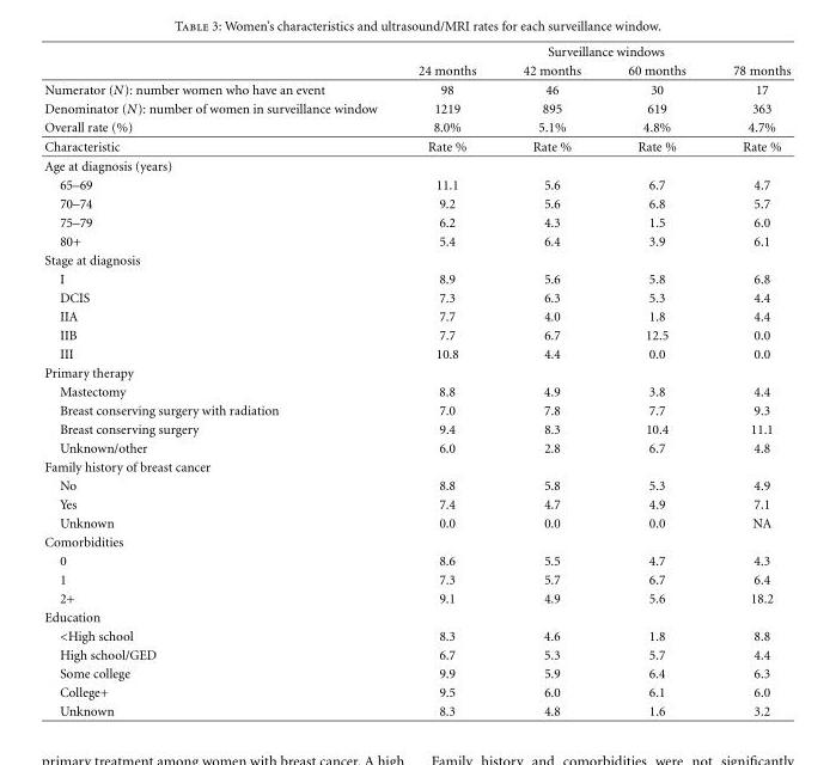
<table><thead><tr><td rowspan="2"></td><td colspan="4">Surveillance windows</td></tr><tr><td>24 months</td><td>42 months</td><td>60 months</td><td>78 months</td></tr></thead><tbody><tr><td>Numerator (N): number women who have an event</td><td>98</td><td>46</td><td>30</td><td>17</td></tr><tr><td>Denominator (N): number of women in surveillance window</td><td>1219</td><td>895</td><td>619</td><td>363</td></tr><tr><td>Overall rate (%)</td><td>8.0%</td><td>5.1%</td><td>4.8%</td><td>4.7%</td></tr><tr><td>Characteristic</td><td>Rate %</td><td>Rate %</td><td>Rate %</td><td>Rate %</td></tr><tr><td colspan="5">Age at diagnosis (years)</td></tr><tr><td>65–69</td><td>11.1</td><td>5.6</td><td>6.7</td><td>4.7</td></tr><tr><td>70–74</td><td>9.2</td><td>5.6</td><td>6.8</td><td>5.7</td></tr><tr><td>75–79</td><td>6.2</td><td>4.3</td><td>1.5</td><td>6.0</td></tr><tr><td>80+</td><td>5.4</td><td>6.4</td><td>3.9</td><td>6.1</td></tr><tr><td colspan="5">Stage at diagnosis</td></tr><tr><td>I</td><td>8.9</td><td>5.6</td><td>5.8</td><td>6.8</td></tr><tr><td>DCIS</td><td>7.3</td><td>6.3</td><td>5.3</td><td>4.4</td></tr><tr><td>IIA</td><td>7.7</td><td>4.0</td><td>1.8</td><td>4.4</td></tr><tr><td>IIB</td><td>7.7</td><td>6.7</td><td>12.5</td><td>0.0</td></tr><tr><td>III</td><td>10.8</td><td>4.4</td><td>0.0</td><td>0.0</td></tr><tr><td colspan="5">Primary therapy</td></tr><tr><td>Mastectomy</td><td>8.8</td><td>4.9</td><td>3.8</td><td>4.4</td></tr><tr><td>Breast conserving surgery with radiation</td><td>7.0</td><td>7.8</td><td>7.7</td><td>9.3</td></tr><tr><td>Breast conserving surgery</td><td>9.4</td><td>8.3</td><td>10.4</td><td>11.1</td></tr><tr><td>Unknown/other</td><td>6.0</td><td>2.8</td><td>6.7</td><td>4.8</td></tr><tr><td colspan="5">Family history of breast cancer</td></tr><tr><td>No</td><td>8.8</td><td>5.8</td><td>5.3</td><td>4.9</td></tr><tr><td>Yes</td><td>7.4</td><td>4.7</td><td>4.9</td><td>7.1</td></tr><tr><td>Unknown</td><td>0.0</td><td>0.0</td><td>0.0</td><td>NA</td></tr><tr><td colspan="5">Comorbidities</td></tr><tr><td>0</td><td>8.6</td><td>5.5</td><td>4.7</td><td>4.3</td></tr><tr><td>1</td><td>7.3</td><td>5.7</td><td>6.7</td><td>6.4</td></tr><tr><td>2+</td><td>9.1</td><td>4.9</td><td>5.6</td><td>18.2</td></tr><tr><td colspan="5">Education</td></tr><tr><td>&lt;High school</td><td>8.3</td><td>4.6</td><td>1.8</td><td>8.8</td></tr><tr><td>High school/GED</td><td>6.7</td><td>5.3</td><td>5.7</td><td>4.4</td></tr><tr><td>Some college</td><td>9.9</td><td>5.9</td><td>6.4</td><td>6.3</td></tr><tr><td>College+</td><td>9.5</td><td>6.0</td><td>6.1</td><td>6.0</td></tr><tr><td>Unknown</td><td>8.3</td><td>4.8</td><td>1.6</td><td>3.2</td></tr></tbody></table>